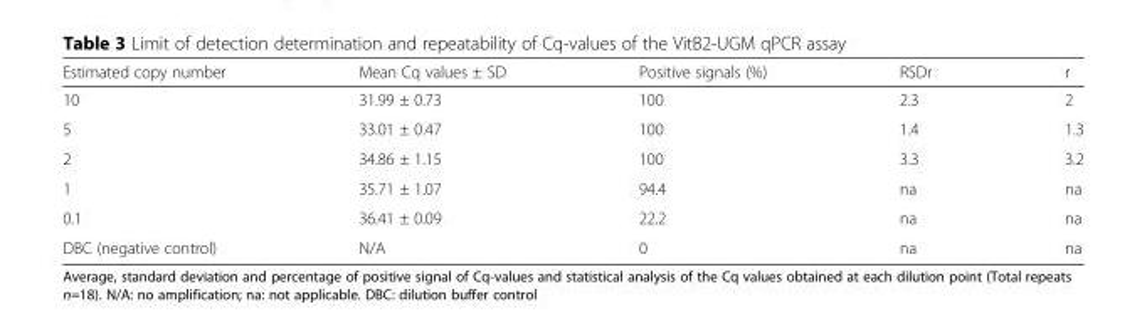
<table><thead><tr><td>Estimated copy number</td><td>Mean Cq values ± SD</td><td>Positive signals (%)</td><td>RSDr</td><td>r</td></tr></thead><tbody><tr><td>10</td><td>31.99 ± 0.73</td><td>100</td><td>2.3</td><td>2</td></tr><tr><td>5</td><td>33.01 ± 0.47</td><td>100</td><td>1.4</td><td>1.3</td></tr><tr><td>2</td><td>34.86 ± 1.15</td><td>100</td><td>3.3</td><td>3.2</td></tr><tr><td>1</td><td>35.71 ± 1.07</td><td>94.4</td><td>na</td><td>na</td></tr><tr><td>0.1</td><td>36.41 ± 0.09</td><td>22.2</td><td>na</td><td>na</td></tr><tr><td>DBC (negative control)</td><td>N/A</td><td>0</td><td>na</td><td>na</td></tr></tbody></table>